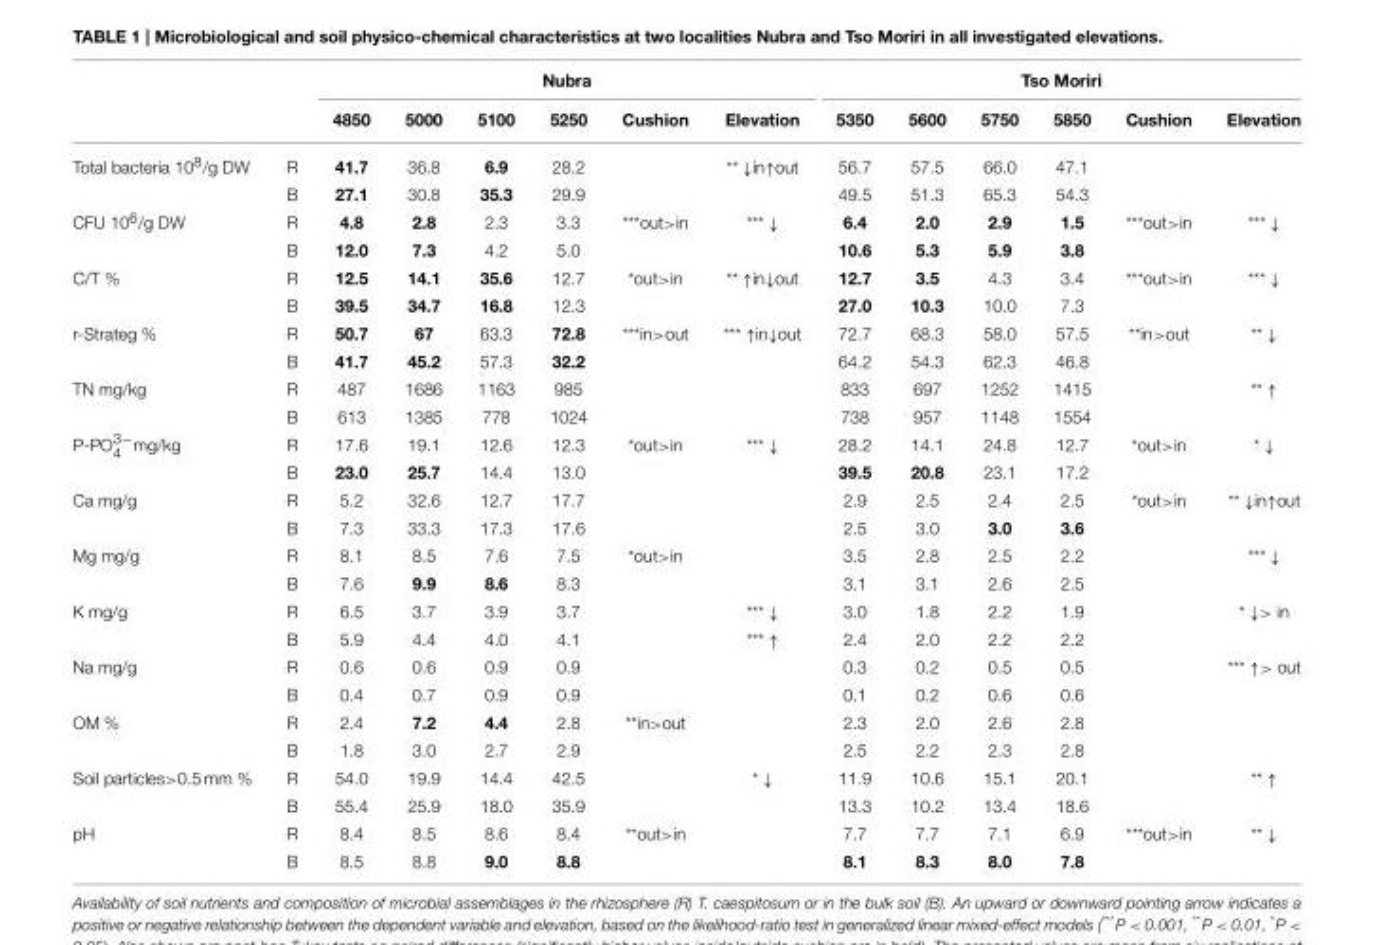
<table><thead><tr><td rowspan="2"></td><td rowspan="2"></td><td colspan="6">Nubra</td><td colspan="6">Tso Moriri</td></tr><tr><td>4850</td><td>5000</td><td>5100</td><td>5250</td><td>Cushion</td><td>Elevation</td><td>5350</td><td>5600</td><td>5750</td><td>5850</td><td>Cushion</td><td>Elevation</td></tr></thead><tbody><tr><td rowspan="2">Total bacteria 10<sup>8</sup>/g DW</td><td>R</td><td>41.7</td><td>36.8</td><td>6.9</td><td>28.2</td><td></td><td>** ↓in↑out</td><td>56.7</td><td>57.5</td><td>66.0</td><td>47.1</td><td></td><td></td></tr><tr><td>B</td><td>27.1</td><td>30.8</td><td>35.3</td><td>29.9</td><td></td><td></td><td>49.5</td><td>51.3</td><td>65.3</td><td>54.3</td><td></td><td></td></tr><tr><td rowspan="2">CFU 10<sup>6</sup>/g DW</td><td>R</td><td>4.8</td><td>2.8</td><td>2.3</td><td>3.3</td><td>***out&gt;in</td><td>*** ↓</td><td>6.4</td><td>2.0</td><td>2.9</td><td>1.5</td><td>***out&gt;in</td><td>*** ↓</td></tr><tr><td>B</td><td>12.0</td><td>7.3</td><td>4.2</td><td>5.0</td><td></td><td></td><td>10.6</td><td>5.3</td><td>5.9</td><td>3.8</td><td></td><td></td></tr><tr><td rowspan="2">C/T %</td><td>R</td><td>12.5</td><td>14.1</td><td>35.6</td><td>12.7</td><td>*out&gt;in</td><td>** ↑in↓out</td><td>12.7</td><td>3.5</td><td>4.3</td><td>3.4</td><td>***out&gt;in</td><td>*** ↓</td></tr><tr><td>B</td><td>39.5</td><td>34.7</td><td>16.8</td><td>12.3</td><td></td><td></td><td>27.0</td><td>10.3</td><td>10.0</td><td>7.3</td><td></td><td></td></tr><tr><td rowspan="2">r-Strateg %</td><td>R</td><td>50.7</td><td>67</td><td>63.3</td><td>72.8</td><td>***in&gt;out</td><td>*** ↑in↓out</td><td>72.7</td><td>68.3</td><td>58.0</td><td>57.5</td><td>**in&gt;out</td><td>** ↓</td></tr><tr><td>B</td><td>41.7</td><td>45.2</td><td>57.3</td><td>32.2</td><td></td><td></td><td>64.2</td><td>54.3</td><td>62.3</td><td>46.8</td><td></td><td></td></tr><tr><td rowspan="2">TN mg/kg</td><td>R</td><td>487</td><td>1686</td><td>1163</td><td>985</td><td></td><td></td><td>833</td><td>697</td><td>1252</td><td>1415</td><td></td><td>** ↑</td></tr><tr><td>B</td><td>613</td><td>1385</td><td>778</td><td>1024</td><td></td><td></td><td>738</td><td>957</td><td>1148</td><td>1554</td><td></td><td></td></tr><tr><td rowspan="2">P-PO<sup>3−</sup> <sub>4</sub> mg/kg</td><td>R</td><td>17.6</td><td>19.1</td><td>12.6</td><td>12.3</td><td>*out&gt;in</td><td>*** ↓</td><td>28.2</td><td>14.1</td><td>24.8</td><td>12.7</td><td>*out&gt;in</td><td>* ↓</td></tr><tr><td>B</td><td>23.0</td><td>25.7</td><td>14.4</td><td>13.0</td><td></td><td></td><td>39.5</td><td>20.8</td><td>23.1</td><td>17.2</td><td></td><td></td></tr><tr><td rowspan="2">Ca mg/g</td><td>R</td><td>5.2</td><td>32.6</td><td>12.7</td><td>17.7</td><td></td><td></td><td>2.9</td><td>2.5</td><td>2.4</td><td>2.5</td><td>*out&gt;in</td><td>** ↓in↑out</td></tr><tr><td>B</td><td>7.3</td><td>33.3</td><td>17.3</td><td>17.6</td><td></td><td></td><td>2.5</td><td>3.0</td><td>3.0</td><td>3.6</td><td></td><td></td></tr><tr><td rowspan="2">Mg mg/g</td><td>R</td><td>8.1</td><td>8.5</td><td>7.6</td><td>7.5</td><td>*out&gt;in</td><td></td><td>3.5</td><td>2.8</td><td>2.5</td><td>2.2</td><td></td><td>*** ↓</td></tr><tr><td>B</td><td>7.6</td><td>9.9</td><td>8.6</td><td>8.3</td><td></td><td></td><td>3.1</td><td>3.1</td><td>2.6</td><td>2.5</td><td></td><td></td></tr><tr><td rowspan="2">K mg/g</td><td>R</td><td>6.5</td><td>3.7</td><td>3.9</td><td>3.7</td><td></td><td>*** ↓</td><td>3.0</td><td>1.8</td><td>2.2</td><td>1.9</td><td></td><td>* ↓&gt; in</td></tr><tr><td>B</td><td>5.9</td><td>4.4</td><td>4.0</td><td>4.1</td><td></td><td>*** ↑</td><td>2.4</td><td>2.0</td><td>2.2</td><td>2.2</td><td></td><td></td></tr><tr><td rowspan="2">Na mg/g</td><td>R</td><td>0.6</td><td>0.6</td><td>0.9</td><td>0.9</td><td></td><td></td><td>0.3</td><td>0.2</td><td>0.5</td><td>0.5</td><td></td><td>*** ↑&gt; out</td></tr><tr><td>B</td><td>0.4</td><td>0.7</td><td>0.9</td><td>0.9</td><td></td><td></td><td>0.1</td><td>0.2</td><td>0.6</td><td>0.6</td><td></td><td></td></tr><tr><td rowspan="2">OM %</td><td>R</td><td>2.4</td><td>7.2</td><td>4.4</td><td>2.8</td><td>**in&gt;out</td><td></td><td>2.3</td><td>2.0</td><td>2.6</td><td>2.8</td><td></td><td></td></tr><tr><td>B</td><td>1.8</td><td>3.0</td><td>2.7</td><td>2.9</td><td></td><td></td><td>2.5</td><td>2.2</td><td>2.3</td><td>2.8</td><td></td><td></td></tr><tr><td rowspan="2">Soil particles&gt;0.5 mm %</td><td>R</td><td>54.0</td><td>19.9</td><td>14.4</td><td>42.5</td><td></td><td>* ↓</td><td>11.9</td><td>10.6</td><td>15.1</td><td>20.1</td><td></td><td>** ↑</td></tr><tr><td>B</td><td>55.4</td><td>25.9</td><td>18.0</td><td>35.9</td><td></td><td></td><td>13.3</td><td>10.2</td><td>13.4</td><td>18.6</td><td></td><td></td></tr><tr><td rowspan="2">pH</td><td>R</td><td>8.4</td><td>8.5</td><td>8.6</td><td>8.4</td><td>**out&gt;in</td><td></td><td>7.7</td><td>7.7</td><td>7.1</td><td>6.9</td><td>***out&gt;in</td><td>** ↓</td></tr><tr><td>B</td><td>8.5</td><td>8.8</td><td>9.0</td><td>8.8</td><td></td><td></td><td>8.1</td><td>8.3</td><td>8.0</td><td>7.8</td><td></td><td></td></tr></tbody></table>